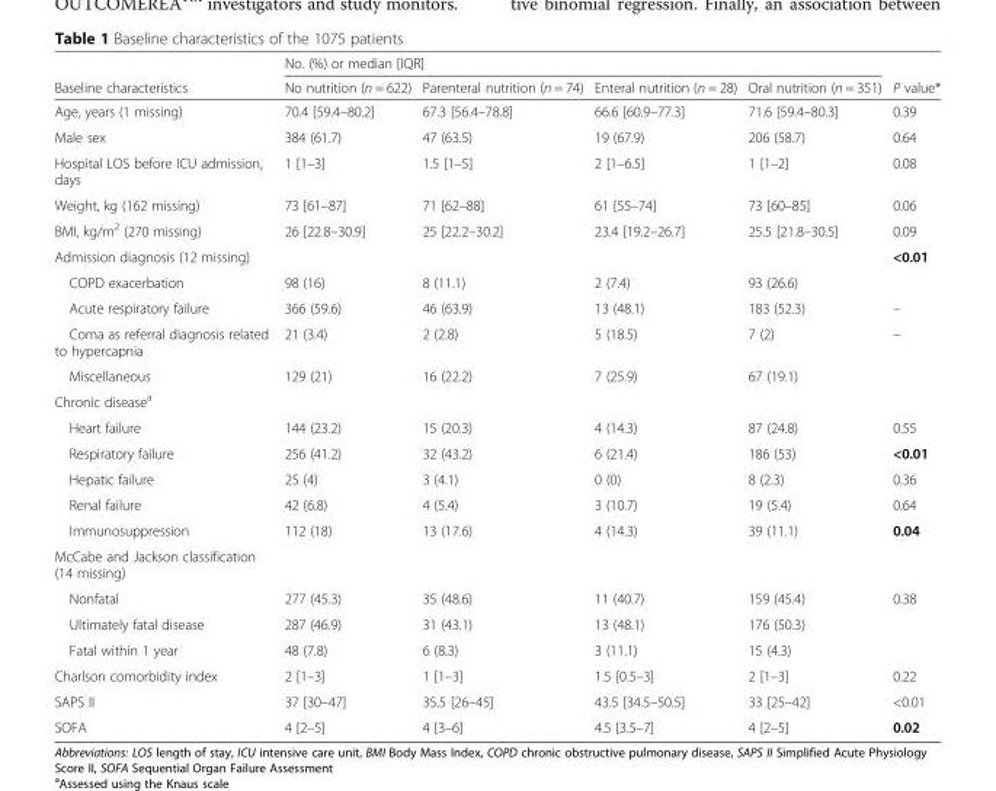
<table><thead><tr><td rowspan="2">Baseline characteristics</td><td colspan="4">No. (%) or median [IQR]</td><td rowspan="2">P value*</td></tr><tr><td>No nutrition (n = 622)</td><td>Parenteral nutrition (n = 74)</td><td>Enteral nutrition (n = 28)</td><td>Oral nutrition (n = 351)</td></tr></thead><tbody><tr><td>Age, years (1 missing)</td><td>70.4 [59.4–80.2]</td><td>67.3 [56.4–78.8]</td><td>66.6 [60.9–77.3]</td><td>71.6 [59.4–80.3]</td><td>0.39</td></tr><tr><td>Male sex</td><td>384 (61.7)</td><td>47 (63.5)</td><td>19 (67.9)</td><td>206 (58.7)</td><td>0.64</td></tr><tr><td>Hospital LOS before ICU admission, days</td><td>1 [1–3]</td><td>1.5 [1–5]</td><td>2 [1–6.5]</td><td>1 [1–2]</td><td>0.08</td></tr><tr><td>Weight, kg (162 missing)</td><td>73 [61–87]</td><td>71 [62–88]</td><td>61 [55–74]</td><td>73 [60–85]</td><td>0.06</td></tr><tr><td>BMI, kg/m<sup>2</sup> (270 missing)</td><td>26 [22.8–30.9]</td><td>25 [22.2–30.2]</td><td>23.4 [19.2–26.7]</td><td>25.5 [21.8–30.5]</td><td>0.09</td></tr><tr><td>Admission diagnosis (12 missing)</td><td></td><td></td><td></td><td></td><td>&lt;0.01</td></tr><tr><td>COPD exacerbation</td><td>98 (16)</td><td>8 (11.1)</td><td>2 (7.4)</td><td>93 (26.6)</td><td></td></tr><tr><td>Acute respiratory failure</td><td>366 (59.6)</td><td>46 (63.9)</td><td>13 (48.1)</td><td>183 (52.3)</td><td>–</td></tr><tr><td>Coma as referral diagnosis related to hypercapnia</td><td>21 (3.4)</td><td>2 (2.8)</td><td>5 (18.5)</td><td>7 (2)</td><td>–</td></tr><tr><td>Miscellaneous</td><td>129 (21)</td><td>16 (22.2)</td><td>7 (25.9)</td><td>67 (19.1)</td><td></td></tr><tr><td colspan="6">Chronic disease<sup>a</sup></td></tr><tr><td>Heart failure</td><td>144 (23.2)</td><td>15 (20.3)</td><td>4 (14.3)</td><td>87 (24.8)</td><td>0.55</td></tr><tr><td>Respiratory failure</td><td>256 (41.2)</td><td>32 (43.2)</td><td>6 (21.4)</td><td>186 (53)</td><td>&lt;0.01</td></tr><tr><td>Hepatic failure</td><td>25 (4)</td><td>3 (4.1)</td><td>0 (0)</td><td>8 (2.3)</td><td>0.36</td></tr><tr><td>Renal failure</td><td>42 (6.8)</td><td>4 (5.4)</td><td>3 (10.7)</td><td>19 (5.4)</td><td>0.64</td></tr><tr><td>Immunosuppression</td><td>112 (18)</td><td>13 (17.6)</td><td>4 (14.3)</td><td>39 (11.1)</td><td>0.04</td></tr><tr><td colspan="6">McCabe and Jackson classification (14 missing)</td></tr><tr><td>Nonfatal</td><td>277 (45.3)</td><td>35 (48.6)</td><td>11 (40.7)</td><td>159 (45.4)</td><td>0.38</td></tr><tr><td>Ultimately fatal disease</td><td>287 (46.9)</td><td>31 (43.1)</td><td>13 (48.1)</td><td>176 (50.3)</td><td></td></tr><tr><td>Fatal within 1 year</td><td>48 (7.8)</td><td>6 (8.3)</td><td>3 (11.1)</td><td>15 (4.3)</td><td></td></tr><tr><td>Charlson comorbidity index</td><td>2 [1–3]</td><td>1 [1–3]</td><td>1.5 [0.5–3]</td><td>2 [1–3]</td><td>0.22</td></tr><tr><td>SAPS II</td><td>37 [30–47]</td><td>35.5 [26–45]</td><td>43.5 [34.5–50.5]</td><td>33 [25–42]</td><td>&lt;0.01</td></tr><tr><td>SOFA</td><td>4 [2–5]</td><td>4 [3–6]</td><td>4.5 [3.5–7]</td><td>4 [2–5]</td><td>0.02</td></tr></tbody></table>